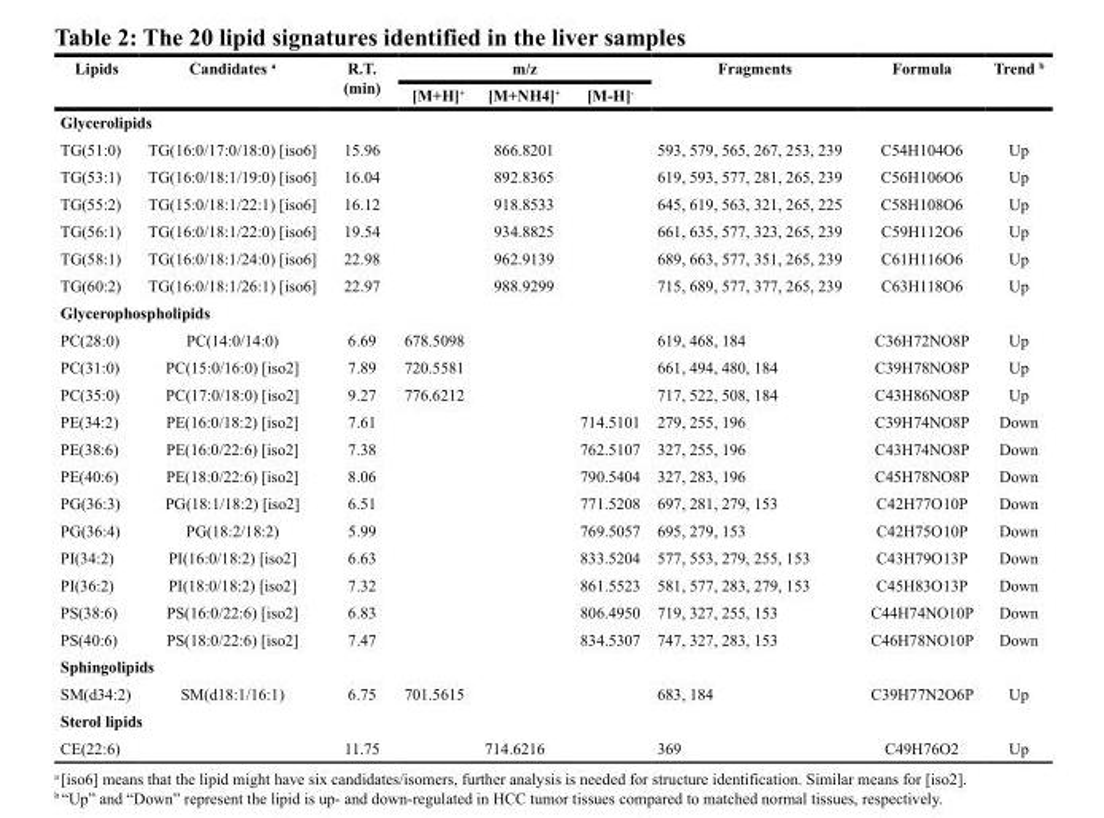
<table><thead><tr><td rowspan="2">Lipids</td><td rowspan="2">Candidates <sup>a</sup></td><td rowspan="2">R.T. (min)</td><td colspan="3">m/z</td><td rowspan="2">Fragments</td><td rowspan="2">Formula</td><td rowspan="2">Trend <sup>b</sup></td></tr><tr><td>[M+H]<sup>+</sup></td><td>[M+NH4]<sup>+</sup></td><td>[M-H]<sup>-</sup></td></tr></thead><tbody><tr><td colspan="9">Glycerolipids</td></tr><tr><td>TG(51:0)</td><td>TG(16:0/17:0/18:0) [iso6]</td><td>15.96</td><td></td><td>866.8201</td><td></td><td>593, 579, 565, 267, 253, 239</td><td>C54H104O6</td><td>Up</td></tr><tr><td>TG(53:1)</td><td>TG(16:0/18:1/19:0) [iso6]</td><td>16.04</td><td></td><td>892.8365</td><td></td><td>619, 593, 577, 281, 265, 239</td><td>C56H106O6</td><td>Up</td></tr><tr><td>TG(55:2)</td><td>TG(15:0/18:1/22:1) [iso6]</td><td>16.12</td><td></td><td>918.8533</td><td></td><td>645, 619, 563, 321, 265, 225</td><td>C58H108O6</td><td>Up</td></tr><tr><td>TG(56:1)</td><td>TG(16:0/18:1/22:0) [iso6]</td><td>19.54</td><td></td><td>934.8825</td><td></td><td>661, 635, 577, 323, 265, 239</td><td>C59H112O6</td><td>Up</td></tr><tr><td>TG(58:1)</td><td>TG(16:0/18:1/24:0) [iso6]</td><td>22.98</td><td></td><td>962.9139</td><td></td><td>689, 663, 577, 351, 265, 239</td><td>C61H116O6</td><td>Up</td></tr><tr><td>TG(60:2)</td><td>TG(16:0/18:1/26:1) [iso6]</td><td>22.97</td><td></td><td>988.9299</td><td></td><td>715, 689, 577, 377, 265, 239</td><td>C63H118O6</td><td>Up</td></tr><tr><td colspan="9">Glycerophospholipids</td></tr><tr><td>PC(28:0)</td><td>PC(14:0/14:0)</td><td>6.69</td><td>678.5098</td><td></td><td></td><td>619, 468, 184</td><td>C36H72NO8P</td><td>Up</td></tr><tr><td>PC(31:0)</td><td>PC(15:0/16:0) [iso2]</td><td>7.89</td><td>720.5581</td><td></td><td></td><td>661, 494, 480, 184</td><td>C39H78NO8P</td><td>Up</td></tr><tr><td>PC(35:0)</td><td>PC(17:0/18:0) [iso2]</td><td>9.27</td><td>776.6212</td><td></td><td></td><td>717, 522, 508, 184</td><td>C43H86NO8P</td><td>Up</td></tr><tr><td>PE(34:2)</td><td>PE(16:0/18:2) [iso2]</td><td>7.61</td><td></td><td></td><td>714.5101</td><td>279, 255, 196</td><td>C39H74NO8P</td><td>Down</td></tr><tr><td>PE(38:6)</td><td>PE(16:0/22:6) [iso2]</td><td>7.38</td><td></td><td></td><td>762.5107</td><td>327, 255, 196</td><td>C43H74NO8P</td><td>Down</td></tr><tr><td>PE(40:6)</td><td>PE(18:0/22:6) [iso2]</td><td>8.06</td><td></td><td></td><td>790.5404</td><td>327, 283, 196</td><td>C45H78NO8P</td><td>Down</td></tr><tr><td>PG(36:3)</td><td>PG(18:1/18:2) [iso2]</td><td>6.51</td><td></td><td></td><td>771.5208</td><td>697, 281, 279, 153</td><td>C42H77O10P</td><td>Down</td></tr><tr><td>PG(36:4)</td><td>PG(18:2/18:2)</td><td>5.99</td><td></td><td></td><td>769.5057</td><td>695, 279, 153</td><td>C42H75O10P</td><td>Down</td></tr><tr><td>PI(34:2)</td><td>PI(16:0/18:2) [iso2]</td><td>6.63</td><td></td><td></td><td>833.5204</td><td>577, 553, 279, 255, 153</td><td>C43H79O13P</td><td>Down</td></tr><tr><td>PI(36:2)</td><td>PI(18:0/18:2) [iso2]</td><td>7.32</td><td></td><td></td><td>861.5523</td><td>581, 577, 283, 279, 153</td><td>C45H83O13P</td><td>Down</td></tr><tr><td>PS(38:6)</td><td>PS(16:0/22:6) [iso2]</td><td>6.83</td><td></td><td></td><td>806.4950</td><td>719, 327, 255, 153</td><td>C44H74NO10P</td><td>Down</td></tr><tr><td>PS(40:6)</td><td>PS(18:0/22:6) [iso2]</td><td>7.47</td><td></td><td></td><td>834.5307</td><td>747, 327, 283, 153</td><td>C46H78NO10P</td><td>Down</td></tr><tr><td colspan="9">Sphingolipids</td></tr><tr><td>SM(d34:2)</td><td>SM(d18:1/16:1)</td><td>6.75</td><td>701.5615</td><td></td><td></td><td>683, 184</td><td>C39H77N2O6P</td><td>Up</td></tr><tr><td colspan="9">Sterol lipids</td></tr><tr><td>CE(22:6)</td><td></td><td>11.75</td><td></td><td>714.6216</td><td></td><td>369</td><td>C49H76O2</td><td>Up</td></tr></tbody></table>